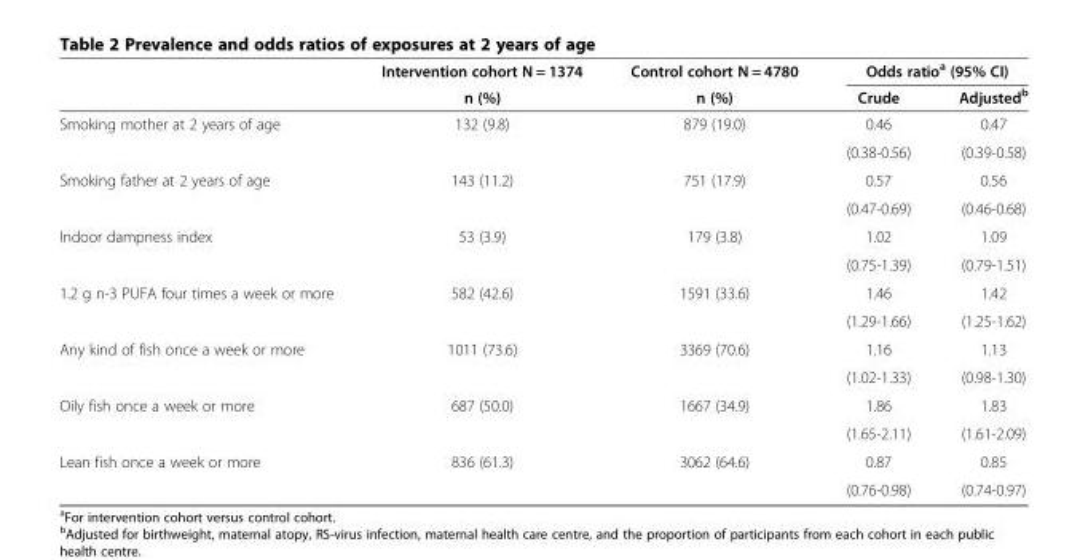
<table><thead><tr><td rowspan="2"></td><td rowspan="2">Intervention cohort N = 1374 n (%)</td><td rowspan="2">Control cohort N = 4780 n (%)</td><td colspan="2">Odds ratio<sup>a</sup> (95% CI)</td></tr><tr><td>Crude</td><td>Adjusted<sup>b</sup></td></tr></thead><tbody><tr><td rowspan="2">Smoking mother at 2 years of age</td><td rowspan="2">132 (9.8)</td><td rowspan="2">879 (19.0)</td><td>0.46</td><td>0.47</td></tr><tr><td>(0.38-0.56)</td><td>(0.39-0.58)</td></tr><tr><td rowspan="2">Smoking father at 2 years of age</td><td rowspan="2">143 (11.2)</td><td rowspan="2">751 (17.9)</td><td>0.57</td><td>0.56</td></tr><tr><td>(0.47-0.69)</td><td>(0.46-0.68)</td></tr><tr><td rowspan="2">Indoor dampness index</td><td rowspan="2">53 (3.9)</td><td rowspan="2">179 (3.8)</td><td>1.02</td><td>1.09</td></tr><tr><td>(0.75-1.39)</td><td>(0.79-1.51)</td></tr><tr><td rowspan="2">1.2 g n-3 PUFA four times a week or more</td><td rowspan="2">582 (42.6)</td><td rowspan="2">1591 (33.6)</td><td>1.46</td><td>1.42</td></tr><tr><td>(1.29-1.66)</td><td>(1.25-1.62)</td></tr><tr><td rowspan="2">Any kind of fish once a week or more</td><td rowspan="2">1011 (73.6)</td><td rowspan="2">3369 (70.6)</td><td>1.16</td><td>1.13</td></tr><tr><td>(1.02-1.33)</td><td>(0.98-1.30)</td></tr><tr><td rowspan="2">Oily fish once a week or more</td><td rowspan="2">687 (50.0)</td><td rowspan="2">1667 (34.9)</td><td>1.86</td><td>1.83</td></tr><tr><td>(1.65-2.11)</td><td>(1.61-2.09)</td></tr><tr><td rowspan="2">Lean fish once a week or more</td><td rowspan="2">836 (61.3)</td><td rowspan="2">3062 (64.6)</td><td>0.87</td><td>0.85</td></tr><tr><td>(0.76-0.98)</td><td>(0.74-0.97)</td></tr></tbody></table>